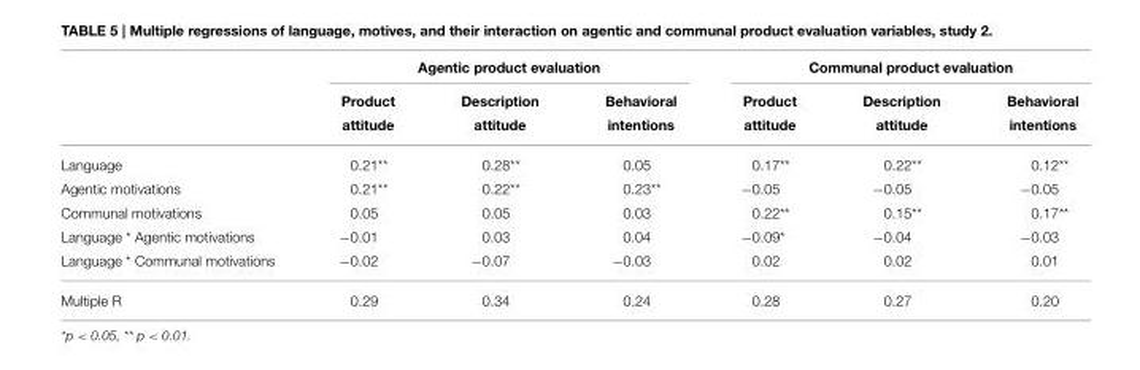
<table><thead><tr><td rowspan="2"></td><td colspan="3">Agentic product evaluation</td><td colspan="3">Communal product evaluation</td></tr><tr><td>Product attitude</td><td>Description attitude</td><td>Behavioral intentions</td><td>Product attitude</td><td>Description attitude</td><td>Behavioral intentions</td></tr></thead><tbody><tr><td>Language</td><td>0.21**</td><td>0.28**</td><td>0.05</td><td>0.17**</td><td>0.22**</td><td>0.12**</td></tr><tr><td>Agentic motivations</td><td>0.21**</td><td>0.22**</td><td>0.23**</td><td>−0.05</td><td>−0.05</td><td>−0.05</td></tr><tr><td>Communal motivations</td><td>0.05</td><td>0.05</td><td>0.03</td><td>0.22**</td><td>0.15**</td><td>0.17**</td></tr><tr><td>Language * Agentic motivations</td><td>−0.01</td><td>0.03</td><td>0.04</td><td>−0.09*</td><td>−0.04</td><td>−0.03</td></tr><tr><td>Language * Communal motivations</td><td>−0.02</td><td>−0.07</td><td>−0.03</td><td>0.02</td><td>0.02</td><td>0.01</td></tr><tr><td>Multiple R</td><td>0.29</td><td>0.34</td><td>0.24</td><td>0.28</td><td>0.27</td><td>0.20</td></tr></tbody></table>